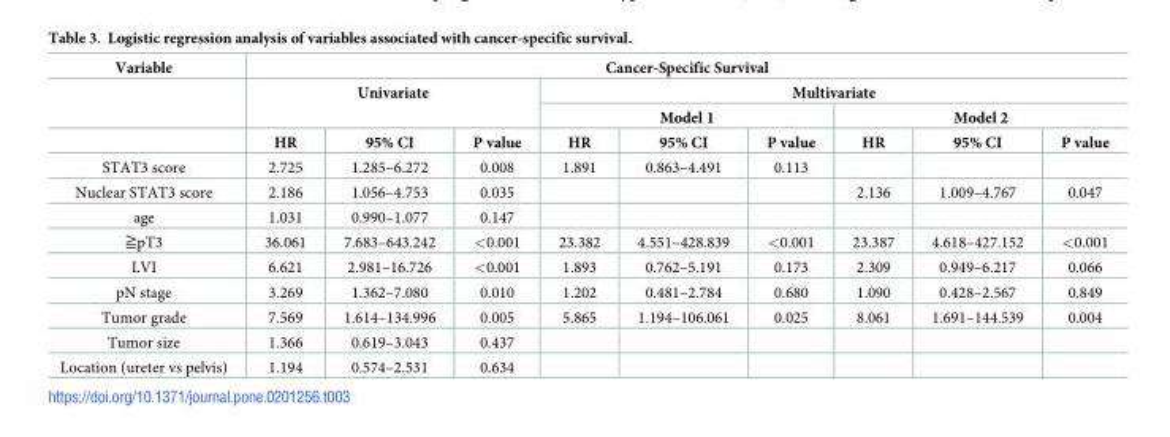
<table><thead><tr><td rowspan="4">Variable</td><td colspan="9">Cancer-Specific Survival</td></tr><tr><td rowspan="2" colspan="3">Univariate</td><td colspan="6">Multivariate</td></tr><tr><td colspan="3">Model 1</td><td colspan="3">Model 2</td></tr><tr><td>HR</td><td>95% CI</td><td>P value</td><td>HR</td><td>95% CI</td><td>P value</td><td>HR</td><td>95% CI</td><td>P value</td></tr></thead><tbody><tr><td>STAT3 score</td><td>2.725</td><td>1.285–6.272</td><td>0.008</td><td>1.891</td><td>0.863–4.491</td><td>0.113</td><td></td><td></td><td></td></tr><tr><td>Nuclear STAT3 score</td><td>2.186</td><td>1.056–4.753</td><td>0.035</td><td></td><td></td><td></td><td>2.136</td><td>1.009–4.767</td><td>0.047</td></tr><tr><td>age</td><td>1.031</td><td>0.990–1.077</td><td>0.147</td><td></td><td></td><td></td><td></td><td></td><td></td></tr><tr><td>≧pT3</td><td>36.061</td><td>7.683–643.242</td><td>&lt;0.001</td><td>23.382</td><td>4.551–428.839</td><td>&lt;0.001</td><td>23.387</td><td>4.618–427.152</td><td>&lt;0.001</td></tr><tr><td>LVI</td><td>6.621</td><td>2.981–16.726</td><td>&lt;0.001</td><td>1.893</td><td>0.762–5.191</td><td>0.173</td><td>2.309</td><td>0.949–6.217</td><td>0.066</td></tr><tr><td>pN stage</td><td>3.269</td><td>1.362–7.080</td><td>0.010</td><td>1.202</td><td>0.481–2.784</td><td>0.680</td><td>1.090</td><td>0.428–2.567</td><td>0.849</td></tr><tr><td>Tumor grade</td><td>7.569</td><td>1.614–134.996</td><td>0.005</td><td>5.865</td><td>1.194–106.061</td><td>0.025</td><td>8.061</td><td>1.691–144.539</td><td>0.004</td></tr><tr><td>Tumor size</td><td>1.366</td><td>0.619–3.043</td><td>0.437</td><td></td><td></td><td></td><td></td><td></td><td></td></tr><tr><td>Location (ureter vs pelvis)</td><td>1.194</td><td>0.574–2.531</td><td>0.634</td><td></td><td></td><td></td><td></td><td></td><td></td></tr></tbody></table>